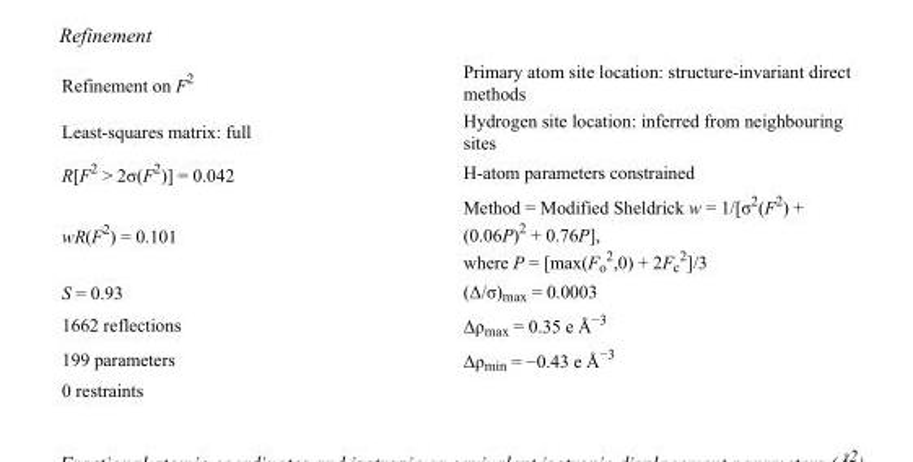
<table><tbody><tr><td>Refinement on F<sup>2</sup></td><td>Primary atom site location: structure-invariant direct methods</td></tr><tr><td>Least-squares matrix: full</td><td>Hydrogen site location: inferred from neighbouring sites</td></tr><tr><td>R[F<sup>2</sup> &gt; 2σ(F<sup>2</sup>)] = 0.042</td><td>H-atom parameters constrained</td></tr><tr><td>wR(F<sup>2</sup>) = 0.101</td><td>Method = Modified Sheldrick w = 1/[σ<sup>2</sup>(F<sup>2</sup>) + (0.06P)<sup>2</sup> + 0.76P], where P = [max(F<sub>o</sub> <sup>2</sup>,0) + 2F<sub>c</sub> <sup>2</sup>]/3</td></tr><tr><td>S = 0.93</td><td>(Δ/σ)<sub>max</sub> = 0.0003</td></tr><tr><td>1662 reflections</td><td>Δρ<sub>max</sub> = 0.35 e Å<sup>−3</sup></td></tr><tr><td>199 parameters</td><td>Δρ<sub>min</sub> = −0.43 e Å<sup>−3</sup></td></tr><tr><td>0 restraints</td><td></td></tr></tbody></table>